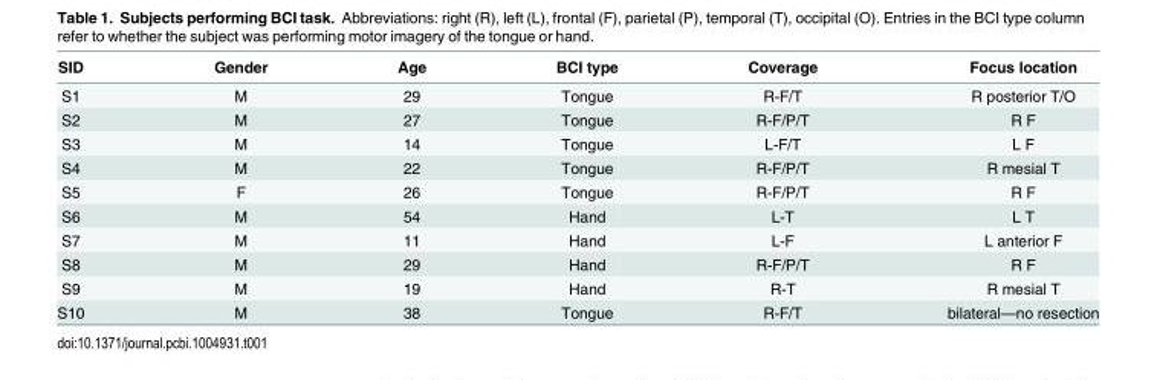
<table><thead><tr><td>SID</td><td>Gender</td><td>Age</td><td>BCI type</td><td>Coverage</td><td>Focus location</td></tr></thead><tbody><tr><td>S1</td><td>M</td><td>29</td><td>Tongue</td><td>R-F/T</td><td>R posterior T/O</td></tr><tr><td>S2</td><td>M</td><td>27</td><td>Tongue</td><td>R-F/P/T</td><td>R F</td></tr><tr><td>S3</td><td>M</td><td>14</td><td>Tongue</td><td>L-F/T</td><td>L F</td></tr><tr><td>S4</td><td>M</td><td>22</td><td>Tongue</td><td>R-F/P/T</td><td>R mesial T</td></tr><tr><td>S5</td><td>F</td><td>26</td><td>Tongue</td><td>R-F/P/T</td><td>R F</td></tr><tr><td>S6</td><td>M</td><td>54</td><td>Hand</td><td>L-T</td><td>L T</td></tr><tr><td>S7</td><td>M</td><td>11</td><td>Hand</td><td>L-F</td><td>L anterior F</td></tr><tr><td>S8</td><td>M</td><td>29</td><td>Hand</td><td>R-F/P/T</td><td>R F</td></tr><tr><td>S9</td><td>M</td><td>19</td><td>Hand</td><td>R-T</td><td>R mesial T</td></tr><tr><td>S10</td><td>M</td><td>38</td><td>Tongue</td><td>R-F/T</td><td>bilateral—no resection</td></tr></tbody></table>